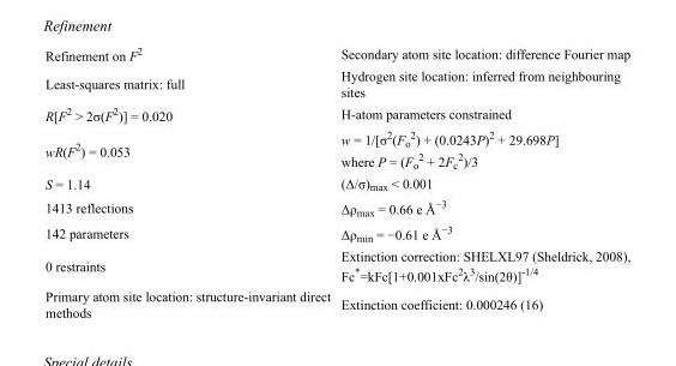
<table><tbody><tr><td>Refinement on F<sup>2</sup></td><td>Secondary atom site location: difference Fourier map</td></tr><tr><td>Least-squares matrix: full</td><td>Hydrogen site location: inferred from neighbouring sites</td></tr><tr><td>R[F<sup>2</sup> &gt; 2σ(F<sup>2</sup>)] = 0.020</td><td>H-atom parameters constrained</td></tr><tr><td>wR(F<sup>2</sup>) = 0.053</td><td>w = 1/[σ<sup>2</sup>(F<sub>o</sub> <sup>2</sup>) + (0.0243P)<sup>2</sup> + 29.698P] where P = (F<sub>o</sub> <sup>2</sup> + 2F<sub>c</sub> <sup>2</sup>)/3</td></tr><tr><td>S = 1.14</td><td>(Δ/σ)<sub>max</sub> &lt; 0.001</td></tr><tr><td>1413 reflections</td><td>Δρ<sub>max</sub> = 0.66 e Å<sup>−3</sup></td></tr><tr><td>142 parameters</td><td>Δρ<sub>min</sub> = −0.61 e Å<sup>−3</sup></td></tr><tr><td>0 restraints</td><td>Extinction correction: SHELXL97 (Sheldrick, 2008), Fc*=kFc[1+0.001xFc<sup>2</sup>λ<sup>3</sup>/sin(2θ)]<sup>-1/4</sup></td></tr><tr><td>Primary atom site location: structure-invariant direct methods</td><td>Extinction coefficient: 0.000246 (16)</td></tr></tbody></table>